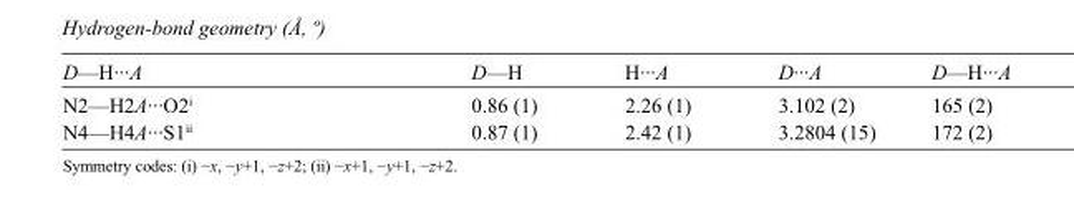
<table><tbody><tr><td>D—H···A</td><td>D—H</td><td>H···A</td><td>D···A</td><td>D—H···A</td></tr><tr><td>N2—H2A···O2<sup>i</sup></td><td>0.86 (1)</td><td>2.26 (1)</td><td>3.102 (2)</td><td>165 (2)</td></tr><tr><td>N4—H4A···S1<sup>ii</sup></td><td>0.87 (1)</td><td>2.42 (1)</td><td>3.2804 (15)</td><td>172 (2)</td></tr></tbody></table>